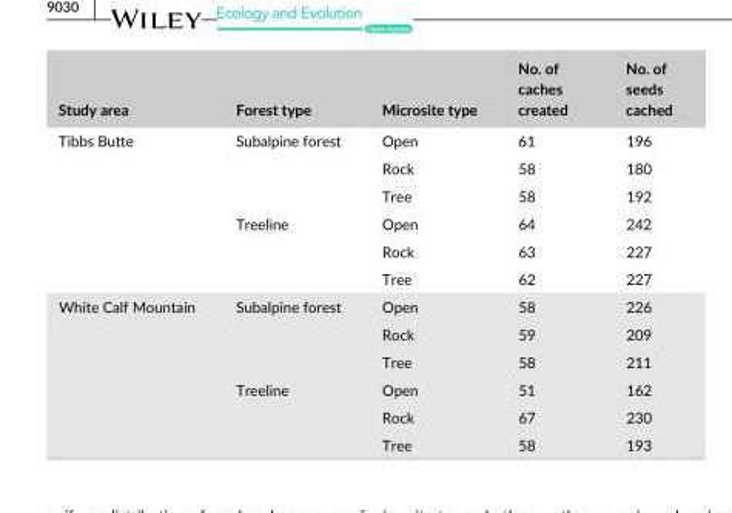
<table><thead><tr><td>Study area</td><td>Forest type</td><td>Microsite type</td><td>No. of caches created</td><td>No. of seeds cached</td></tr></thead><tbody><tr><td rowspan="6">Tibbs Butte</td><td rowspan="3">Subalpine forest</td><td>Open</td><td>61</td><td>196</td></tr><tr><td>Rock</td><td>58</td><td>180</td></tr><tr><td>Tree</td><td>58</td><td>192</td></tr><tr><td rowspan="3">Treeline</td><td>Open</td><td>64</td><td>242</td></tr><tr><td>Rock</td><td>63</td><td>227</td></tr><tr><td>Tree</td><td>62</td><td>227</td></tr><tr><td rowspan="6">White Calf Mountain</td><td rowspan="3">Subalpine forest</td><td>Open</td><td>58</td><td>226</td></tr><tr><td>Rock</td><td>59</td><td>209</td></tr><tr><td>Tree</td><td>58</td><td>211</td></tr><tr><td rowspan="3">Treeline</td><td>Open</td><td>51</td><td>162</td></tr><tr><td>Rock</td><td>67</td><td>230</td></tr><tr><td>Tree</td><td>58</td><td>193</td></tr></tbody></table>